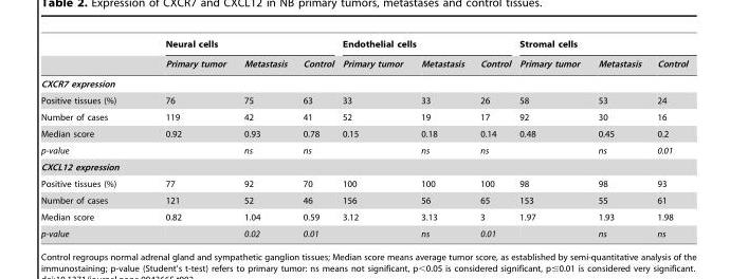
<table><thead><tr><td rowspan="2"></td><td colspan="3">Neural cells</td><td colspan="3">Endothelial cells</td><td colspan="3">Stromal cells</td></tr><tr><td>Primary tumor</td><td>Metastasis</td><td>Control</td><td>Primary tumor</td><td>Metastasis</td><td>Control</td><td>Primary tumor</td><td>Metastasis</td><td>Control</td></tr></thead><tbody><tr><td colspan="10">CXCR7 expression</td></tr><tr><td>Positive tissues (%)</td><td>76</td><td>75</td><td>63</td><td>33</td><td>33</td><td>26</td><td>58</td><td>53</td><td>24</td></tr><tr><td>Number of cases</td><td>119</td><td>42</td><td>41</td><td>52</td><td>19</td><td>17</td><td>92</td><td>30</td><td>16</td></tr><tr><td>Median score</td><td>0.92</td><td>0.93</td><td>0.78</td><td>0.15</td><td>0.18</td><td>0.14</td><td>0.48</td><td>0.45</td><td>0.2</td></tr><tr><td>p-value</td><td></td><td>ns</td><td>ns</td><td></td><td>ns</td><td>ns</td><td></td><td>ns</td><td>0.01</td></tr><tr><td colspan="10">CXCL12 expression</td></tr><tr><td>Positive tissues (%)</td><td>77</td><td>92</td><td>70</td><td>100</td><td>100</td><td>100</td><td>98</td><td>98</td><td>93</td></tr><tr><td>Number of cases</td><td>121</td><td>52</td><td>46</td><td>156</td><td>56</td><td>65</td><td>153</td><td>55</td><td>61</td></tr><tr><td>Median score</td><td>0.82</td><td>1.04</td><td>0.59</td><td>3.12</td><td>3.13</td><td>3</td><td>1.97</td><td>1.93</td><td>1.98</td></tr><tr><td>p-value</td><td></td><td>0.02</td><td>0.01</td><td></td><td>ns</td><td>0.01</td><td></td><td>ns</td><td>ns</td></tr></tbody></table>